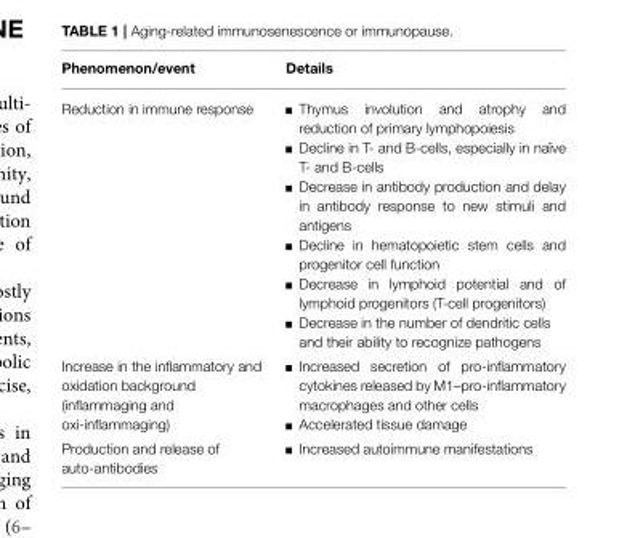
<table><thead><tr><td>Phenomenon/event</td><td>Details</td></tr></thead><tbody><tr><td>Reduction in immune response</td><td>Thymus involution and atrophy and reduction of primary lymphopoiesis Decline in T- and B-cells, especially in naïve T- and B-cells Decrease in antibody production and delay in antibody response to new stimuli and antigens Decline in hematopoietic stem cells and progenitor cell function Decrease in lymphoid potential and of lymphoid progenitors (T-cell progenitors) Decrease in the number of dendritic cells and their ability to recognize pathogens</td></tr><tr><td>Increase in the inflammatory and oxidation background (inflammaging and oxi-inflammaging)</td><td>Increased secretion of pro-inflammatory cytokines released by M1–pro-inflammatory macrophages and other cells Accelerated tissue damage</td></tr><tr><td>Production and release of auto-antibodies</td><td>Increased autoimmune manifestations</td></tr></tbody></table>